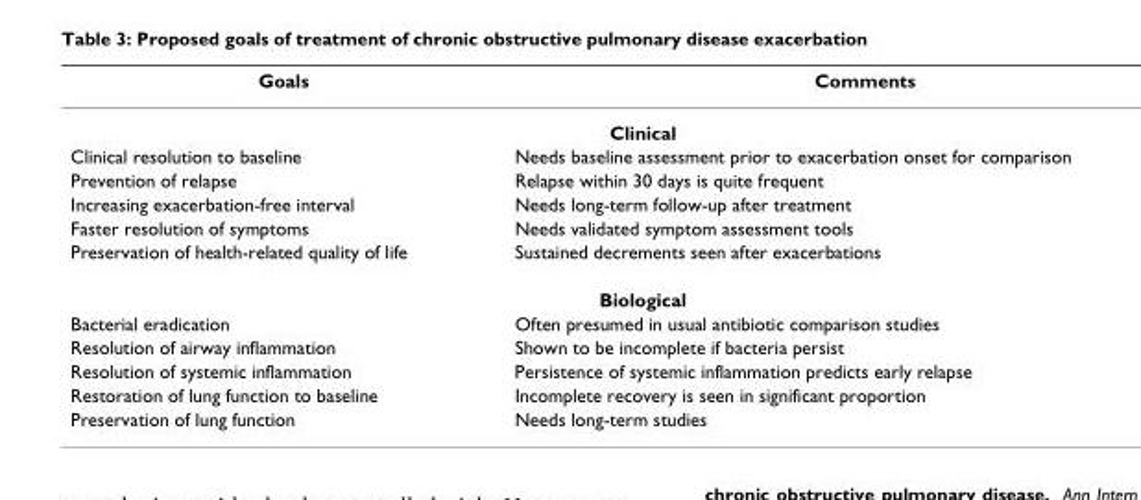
<table><thead><tr><td>Goals</td><td>Comments</td></tr></thead><tbody><tr><td colspan="2">Clinical</td></tr><tr><td>Clinical resolution to baseline</td><td>Needs baseline assessment prior to exacerbation onset for comparison</td></tr><tr><td>Prevention of relapse</td><td>Relapse within 30 days is quite frequent</td></tr><tr><td>Increasing exacerbation-free interval</td><td>Needs long-term follow-up after treatment</td></tr><tr><td>Faster resolution of symptoms</td><td>Needs validated symptom assessment tools</td></tr><tr><td>Preservation of health-related quality of life</td><td>Sustained decrements seen after exacerbations</td></tr><tr><td colspan="2">Biological</td></tr><tr><td>Bacterial eradication</td><td>Often presumed in usual antibiotic comparison studies</td></tr><tr><td>Resolution of airway inflammation</td><td>Shown to be incomplete if bacteria persist</td></tr><tr><td>Resolution of systemic inflammation</td><td>Persistence of systemic inflammation predicts early relapse</td></tr><tr><td>Restoration of lung function to baseline</td><td>Incomplete recovery is seen in significant proportion</td></tr><tr><td>Preservation of lung function</td><td>Needs long-term studies</td></tr></tbody></table>